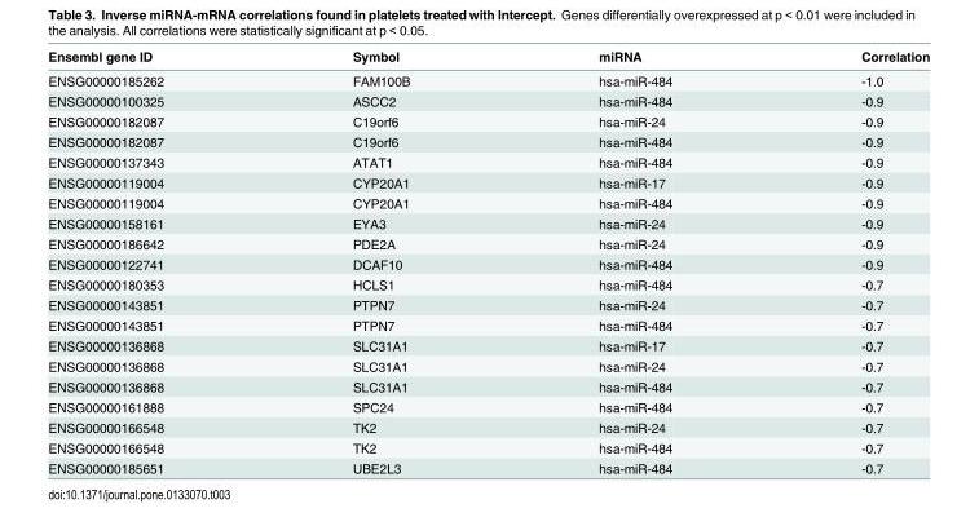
<table><thead><tr><td>Ensembl gene ID</td><td>Symbol</td><td>miRNA</td><td>Correlation</td></tr></thead><tbody><tr><td>ENSG00000185262</td><td>FAM100B</td><td>hsa-miR-484</td><td>-1.0</td></tr><tr><td>ENSG00000100325</td><td>ASCC2</td><td>hsa-miR-484</td><td>-0.9</td></tr><tr><td>ENSG00000182087</td><td>C19orf6</td><td>hsa-miR-24</td><td>-0.9</td></tr><tr><td>ENSG00000182087</td><td>C19orf6</td><td>hsa-miR-484</td><td>-0.9</td></tr><tr><td>ENSG00000137343</td><td>ATAT1</td><td>hsa-miR-484</td><td>-0.9</td></tr><tr><td>ENSG00000119004</td><td>CYP20A1</td><td>hsa-miR-17</td><td>-0.9</td></tr><tr><td>ENSG00000119004</td><td>CYP20A1</td><td>hsa-miR-484</td><td>-0.9</td></tr><tr><td>ENSG00000158161</td><td>EYA3</td><td>hsa-miR-24</td><td>-0.9</td></tr><tr><td>ENSG00000186642</td><td>PDE2A</td><td>hsa-miR-24</td><td>-0.9</td></tr><tr><td>ENSG00000122741</td><td>DCAF10</td><td>hsa-miR-484</td><td>-0.9</td></tr><tr><td>ENSG00000180353</td><td>HCLS1</td><td>hsa-miR-484</td><td>-0.7</td></tr><tr><td>ENSG00000143851</td><td>PTPN7</td><td>hsa-miR-24</td><td>-0.7</td></tr><tr><td>ENSG00000143851</td><td>PTPN7</td><td>hsa-miR-484</td><td>-0.7</td></tr><tr><td>ENSG00000136868</td><td>SLC31A1</td><td>hsa-miR-17</td><td>-0.7</td></tr><tr><td>ENSG00000136868</td><td>SLC31A1</td><td>hsa-miR-24</td><td>-0.7</td></tr><tr><td>ENSG00000136868</td><td>SLC31A1</td><td>hsa-miR-484</td><td>-0.7</td></tr><tr><td>ENSG00000161888</td><td>SPC24</td><td>hsa-miR-484</td><td>-0.7</td></tr><tr><td>ENSG00000166548</td><td>TK2</td><td>hsa-miR-24</td><td>-0.7</td></tr><tr><td>ENSG00000166548</td><td>TK2</td><td>hsa-miR-484</td><td>-0.7</td></tr><tr><td>ENSG00000185651</td><td>UBE2L3</td><td>hsa-miR-484</td><td>-0.7</td></tr></tbody></table>